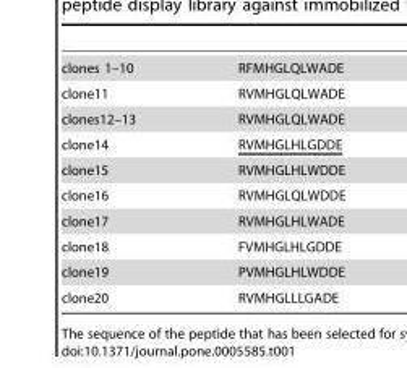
<table><tbody><tr><td>clones 1–10</td><td>RFMHGLQLWADE</td></tr><tr><td>clone11</td><td>RVMHGLQLWADE</td></tr><tr><td>clones12–13</td><td>RVMHGLQLWADE</td></tr><tr><td>clone14</td><td>RVMHGLHLGDDE</td></tr><tr><td>clone15</td><td>RVMHGLHLWDDE</td></tr><tr><td>clone16</td><td>RVMHGLQLWDDE</td></tr><tr><td>clone17</td><td>RVMHGLHLWADE</td></tr><tr><td>clone18</td><td>FVMHGLHLGDDE</td></tr><tr><td>clone19</td><td>PVMHGLHLWDDE</td></tr><tr><td>clone20</td><td>RVMHGLLLGADE</td></tr></tbody></table>